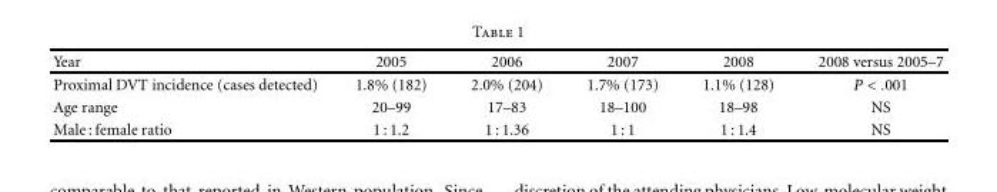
<table><thead><tr><td>Year</td><td>2005</td><td>2006</td><td>2007</td><td>2008</td><td>2008 versus 2005–7</td></tr></thead><tbody><tr><td>Proximal DVT incidence (cases detected)</td><td>1.8% (182)</td><td>2.0% (204)</td><td>1.7% (173)</td><td>1.1% (128)</td><td>P &lt; .001</td></tr><tr><td>Age range</td><td>20–99</td><td>17–83</td><td>18–100</td><td>18–98</td><td>NS</td></tr><tr><td>Male : female ratio</td><td>1 : 1.2</td><td>1 : 1.36</td><td>1 : 1</td><td>1 : 1.4</td><td>NS</td></tr></tbody></table>